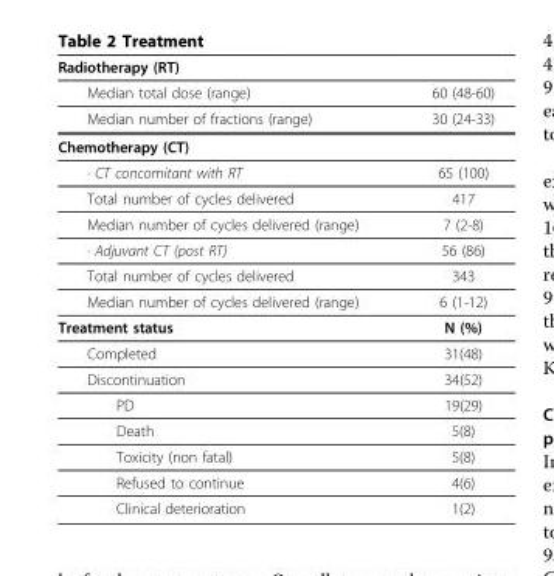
<table><thead><tr><td>Radiotherapy (RT)</td><td></td></tr></thead><tbody><tr><td>Median total dose (range)</td><td>60 (48-60)</td></tr><tr><td>Median number of fractions (range)</td><td>30 (24-33)</td></tr><tr><td colspan="2">Chemotherapy (CT)</td></tr><tr><td>· CT concomitant with RT</td><td>65 (100)</td></tr><tr><td>Total number of cycles delivered</td><td>417</td></tr><tr><td>Median number of cycles delivered (range)</td><td>7 (2-8)</td></tr><tr><td>· Adjuvant CT (post RT)</td><td>56 (86)</td></tr><tr><td>Total number of cycles delivered</td><td>343</td></tr><tr><td>Median number of cycles delivered (range)</td><td>6 (1-12)</td></tr><tr><td>Treatment status</td><td>N (%)</td></tr><tr><td>Completed</td><td>31(48)</td></tr><tr><td>Discontinuation</td><td>34(52)</td></tr><tr><td>PD</td><td>19(29)</td></tr><tr><td>Death</td><td>5(8)</td></tr><tr><td>Toxicity (non fatal)</td><td>5(8)</td></tr><tr><td>Refused to continue</td><td>4(6)</td></tr><tr><td>Clinical deterioration</td><td>1(2)</td></tr></tbody></table>